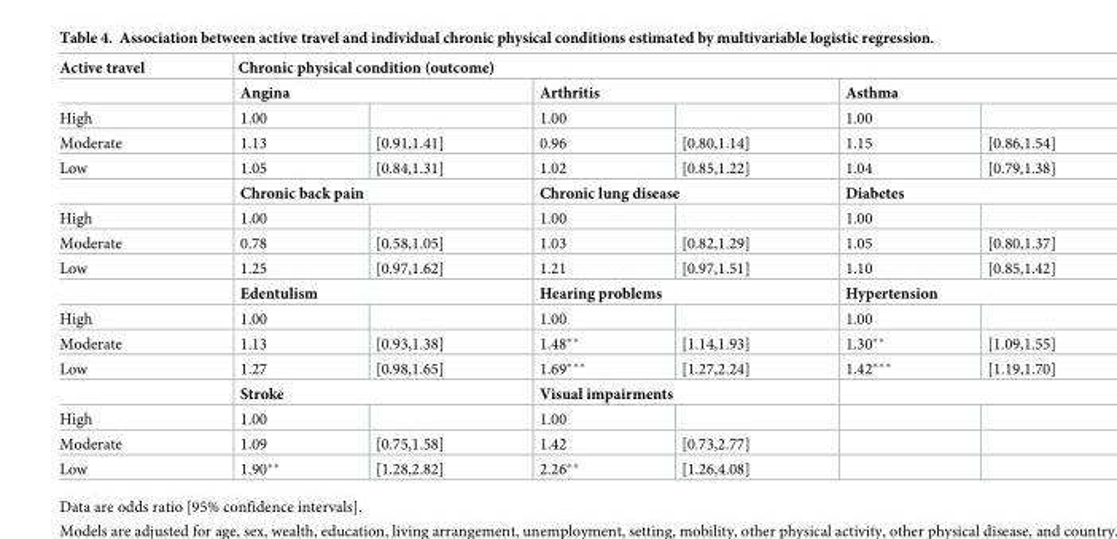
<table><thead><tr><td rowspan="3">Active travel High</td><td colspan="6">Chronic physical condition (outcome)</td></tr><tr><td colspan="2">Angina</td><td colspan="2">Arthritis</td><td colspan="2">Asthma</td></tr><tr><td>1.00</td><td></td><td>1.00</td><td></td><td>1.00</td><td></td></tr></thead><tbody><tr><td>Moderate</td><td>1.13</td><td>[0.91,1.41]</td><td>0.96</td><td>[0.80,1.14]</td><td>1.15</td><td>[0.86,1.54]</td></tr><tr><td rowspan="2">Low</td><td>1.05</td><td>[0.84,1.31]</td><td>1.02</td><td>[0.85,1.22]</td><td>1.04</td><td>[0.79,1.38]</td></tr><tr><td colspan="2">Chronic back pain</td><td colspan="2">Chronic lung disease</td><td colspan="2">Diabetes</td></tr><tr><td>High</td><td>1.00</td><td></td><td>1.00</td><td></td><td>1.00</td><td></td></tr><tr><td>Moderate</td><td>0.78</td><td>[0.58,1.05]</td><td>1.03</td><td>[0.82,1.29]</td><td>1.05</td><td>[0.80,1.37]</td></tr><tr><td rowspan="2">Low</td><td>1.25</td><td>[0.97,1.62]</td><td>1.21</td><td>[0.97,1.51]</td><td>1.10</td><td>[0.85,1.42]</td></tr><tr><td colspan="2">Edentulism</td><td colspan="2">Hearing problems</td><td colspan="2">Hypertension</td></tr><tr><td>High</td><td>1.00</td><td></td><td>1.00</td><td></td><td>1.00</td><td></td></tr><tr><td>Moderate</td><td>1.13</td><td>[0.93,1.38]</td><td>1.48**</td><td>[1.14,1.93]</td><td>1.30**</td><td>[1.09,1.55]</td></tr><tr><td rowspan="2">Low</td><td>1.27</td><td>[0.98,1.65]</td><td>1.69***</td><td>[1.27,2.24]</td><td>1.42***</td><td>[1.19,1.70]</td></tr><tr><td colspan="2">Stroke</td><td colspan="2">Visual impairments</td><td colspan="2"></td></tr><tr><td>High</td><td>1.00</td><td></td><td>1.00</td><td></td><td></td><td></td></tr><tr><td>Moderate</td><td>1.09</td><td>[0.75,1.58]</td><td>1.42</td><td>[0.73,2.77]</td><td></td><td></td></tr><tr><td>Low</td><td>1.90**</td><td>[1.28,2.82]</td><td>2.26**</td><td>[1.26,4.08]</td><td></td><td></td></tr></tbody></table>